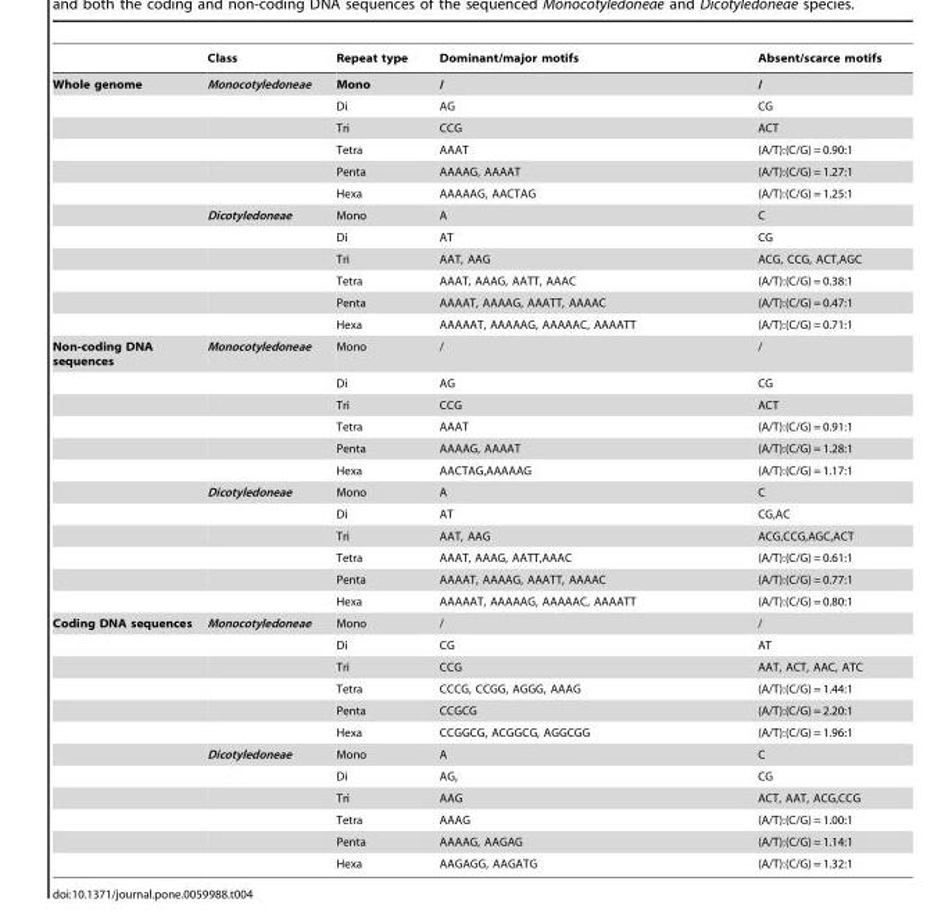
<table><thead><tr><td></td><td>Class</td><td>Repeat type</td><td>Dominant/major motifs</td><td>Absent/scarce motifs</td></tr></thead><tbody><tr><td rowspan="12">Whole genome</td><td>Monocotyledoneae</td><td>Mono</td><td>/</td><td>/</td></tr><tr><td></td><td>Di</td><td>AG</td><td>CG</td></tr><tr><td></td><td>Tri</td><td>CCG</td><td>ACT</td></tr><tr><td></td><td>Tetra</td><td>AAAT</td><td>(A/T):(C/G) = 0.90:1</td></tr><tr><td></td><td>Penta</td><td>AAAAG, AAAAT</td><td>(A/T):(C/G) = 1.27:1</td></tr><tr><td></td><td>Hexa</td><td>AAAAAG, AACTAG</td><td>(A/T):(C/G) = 1.25:1</td></tr><tr><td>Dicotyledoneae</td><td>Mono</td><td>A</td><td>C</td></tr><tr><td></td><td>Di</td><td>AT</td><td>CG</td></tr><tr><td></td><td>Tri</td><td>AAT, AAG</td><td>ACG, CCG, ACT,AGC</td></tr><tr><td></td><td>Tetra</td><td>AAAT, AAAG, AATT, AAAC</td><td>(A/T):(C/G) = 0.38:1</td></tr><tr><td></td><td>Penta</td><td>AAAAT, AAAAG, AAATT, AAAAC</td><td>(A/T):(C/G) = 0.47:1</td></tr><tr><td></td><td>Hexa</td><td>AAAAAT, AAAAAG, AAAAAC, AAAATT</td><td>(A/T):(C/G) = 0.71:1</td></tr><tr><td rowspan="12">Non-coding DNA sequences</td><td>Monocotyledoneae</td><td>Mono</td><td>/</td><td>/</td></tr><tr><td></td><td>Di</td><td>AG</td><td>CG</td></tr><tr><td></td><td>Tri</td><td>CCG</td><td>ACT</td></tr><tr><td></td><td>Tetra</td><td>AAAT</td><td>(A/T):(C/G) = 0.91:1</td></tr><tr><td></td><td>Penta</td><td>AAAAG, AAAAT</td><td>(A/T):(C/G) = 1.28:1</td></tr><tr><td></td><td>Hexa</td><td>AACTAG,AAAAAG</td><td>(A/T):(C/G) = 1.17:1</td></tr><tr><td>Dicotyledoneae</td><td>Mono</td><td>A</td><td>C</td></tr><tr><td></td><td>Di</td><td>AT</td><td>CG,AC</td></tr><tr><td></td><td>Tri</td><td>AAT, AAG</td><td>ACG,CCG,AGC,ACT</td></tr><tr><td></td><td>Tetra</td><td>AAAT, AAAG, AATT,AAAC</td><td>(A/T):(C/G) = 0.61:1</td></tr><tr><td></td><td>Penta</td><td>AAAAT, AAAAG, AAATT, AAAAC</td><td>(A/T):(C/G) = 0.77:1</td></tr><tr><td></td><td>Hexa</td><td>AAAAAT, AAAAAG, AAAAAC, AAAATT</td><td>(A/T):(C/G) = 0.80:1</td></tr><tr><td rowspan="12">Coding DNA sequences</td><td>Monocotyledoneae</td><td>Mono</td><td>/</td><td>/</td></tr><tr><td></td><td>Di</td><td>CG</td><td>AT</td></tr><tr><td></td><td>Tri</td><td>CCG</td><td>AAT, ACT, AAC, ATC</td></tr><tr><td></td><td>Tetra</td><td>CCCG, CCGG, AGGG, AAAG</td><td>(A/T):(C/G) = 1.44:1</td></tr><tr><td></td><td>Penta</td><td>CCGCG</td><td>(A/T):(C/G) = 2.20:1</td></tr><tr><td></td><td>Hexa</td><td>CCGGCG, ACGGCG, AGGCGG</td><td>(A/T):(C/G) = 1.96:1</td></tr><tr><td>Dicotyledoneae</td><td>Mono</td><td>A</td><td>C</td></tr><tr><td></td><td>Di</td><td>AG,</td><td>CG</td></tr><tr><td></td><td>Tri</td><td>AAG</td><td>ACT, AAT, ACG,CCG</td></tr><tr><td></td><td>Tetra</td><td>AAAG</td><td>(A/T):(C/G) = 1.00:1</td></tr><tr><td></td><td>Penta</td><td>AAAAG, AAGAG</td><td>(A/T):(C/G) = 1.14:1</td></tr><tr><td></td><td>Hexa</td><td>AAGAGG, AAGATG</td><td>(A/T):(C/G) = 1.32:1</td></tr></tbody></table>